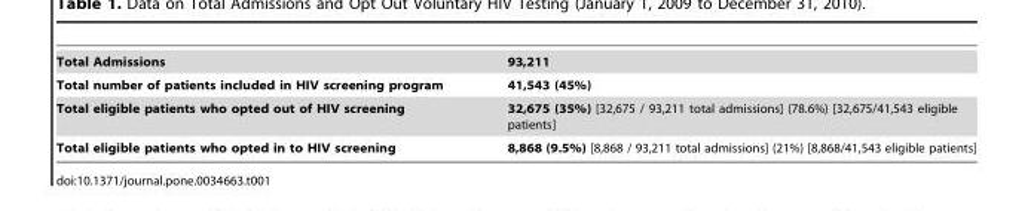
<table><tbody><tr><td>Total Admissions</td><td>93,211</td></tr><tr><td>Total number of patients included in HIV screening program</td><td>41,543 (45%)</td></tr><tr><td>Total eligible patients who opted out of HIV screening</td><td>32,675 (35%) [32,675 / 93,211 total admissions] (78.6%) [32,675/41,543 eligible patients]</td></tr><tr><td>Total eligible patients who opted in to HIV screening</td><td>8,868 (9.5%) [8,868 / 93,211 total admissions] (21%) [8,868/41,543 eligible patients]</td></tr></tbody></table>